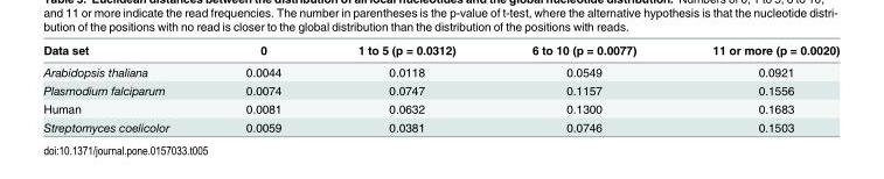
<table><thead><tr><td>Data set</td><td>0</td><td>1 to 5 (p = 0.0312)</td><td>6 to 10 (p = 0.0077)</td><td>11 or more (p = 0.0020)</td></tr></thead><tbody><tr><td>Arabidopsis thaliana</td><td>0.0044</td><td>0.0118</td><td>0.0549</td><td>0.0921</td></tr><tr><td>Plasmodium falciparum</td><td>0.0074</td><td>0.0747</td><td>0.1157</td><td>0.1556</td></tr><tr><td>Human</td><td>0.0081</td><td>0.0632</td><td>0.1300</td><td>0.1683</td></tr><tr><td>Streptomyces coelicolor</td><td>0.0059</td><td>0.0381</td><td>0.0746</td><td>0.1503</td></tr></tbody></table>